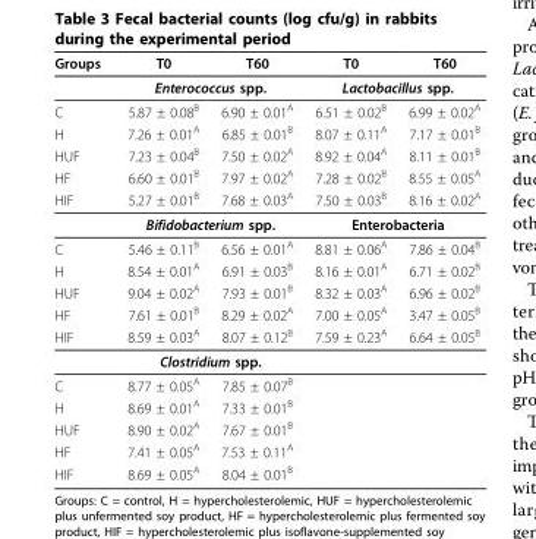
<table><thead><tr><td>Groups</td><td>T0</td><td>T60</td><td>T0</td><td>T60</td></tr></thead><tbody><tr><td></td><td colspan="2">Enterococcus spp.</td><td colspan="2">Lactobacillus spp.</td></tr><tr><td>C</td><td>5.87 ± 0.08<sup>B</sup></td><td>6.90 ± 0.01<sup>A</sup></td><td>6.51 ± 0.02<sup>B</sup></td><td>6.99 ± 0.02<sup>A</sup></td></tr><tr><td>H</td><td>7.26 ± 0.01<sup>A</sup></td><td>6.85 ± 0.01<sup>B</sup></td><td>8.07 ± 0.11<sup>A</sup></td><td>7.17 ± 0.01<sup>B</sup></td></tr><tr><td>HUF</td><td>7.23 ± 0.04<sup>B</sup></td><td>7.50 ± 0.02<sup>A</sup></td><td>8.92 ± 0.04<sup>A</sup></td><td>8.11 ± 0.01<sup>B</sup></td></tr><tr><td>HF</td><td>6.60 ± 0.01<sup>B</sup></td><td>7.97 ± 0.02<sup>A</sup></td><td>7.28 ± 0.02<sup>B</sup></td><td>8.55 ± 0.05<sup>A</sup></td></tr><tr><td rowspan="2">HIF</td><td>5.27 ± 0.01<sup>B</sup></td><td>7.68 ± 0.03<sup>A</sup></td><td>7.50 ± 0.03<sup>B</sup></td><td>8.16 ± 0.02<sup>A</sup></td></tr><tr><td colspan="2">Bifidobacterium spp.</td><td colspan="2">Enterobacteria</td></tr><tr><td>C</td><td>5.46 ± 0.11<sup>B</sup></td><td>6.56 ± 0.01<sup>A</sup></td><td>8.81 ± 0.06<sup>A</sup></td><td>7.86 ± 0.04<sup>B</sup></td></tr><tr><td>H</td><td>8.54 ± 0.01<sup>A</sup></td><td>6.91 ± 0.03<sup>B</sup></td><td>8.16 ± 0.01<sup>A</sup></td><td>6.71 ± 0.02<sup>B</sup></td></tr><tr><td>HUF</td><td>9.04 ± 0.02<sup>A</sup></td><td>7.93 ± 0.01<sup>B</sup></td><td>8.32 ± 0.03<sup>A</sup></td><td>6.96 ± 0.02<sup>B</sup></td></tr><tr><td>HF</td><td>7.61 ± 0.01<sup>B</sup></td><td>8.29 ± 0.02<sup>A</sup></td><td>7.00 ± 0.05<sup>A</sup></td><td>3.47 ± 0.05<sup>B</sup></td></tr><tr><td rowspan="2">HIF</td><td>8.59 ± 0.03<sup>A</sup></td><td>8.07 ± 0.12<sup>B</sup></td><td>7.59 ± 0.23<sup>A</sup></td><td>6.64 ± 0.05<sup>B</sup></td></tr><tr><td colspan="2">Clostridium spp.</td><td></td><td></td></tr><tr><td>C</td><td>8.77 ± 0.05<sup>A</sup></td><td>7.85 ± 0.07<sup>B</sup></td><td></td><td></td></tr><tr><td>H</td><td>8.69 ± 0.01<sup>A</sup></td><td>7.33 ± 0.01<sup>B</sup></td><td></td><td></td></tr><tr><td>HUF</td><td>8.90 ± 0.02<sup>A</sup></td><td>7.67 ± 0.01<sup>B</sup></td><td></td><td></td></tr><tr><td>HF</td><td>7.41 ± 0.05<sup>A</sup></td><td>7.53 ± 0.11<sup>A</sup></td><td></td><td></td></tr><tr><td>HIF</td><td>8.69 ± 0.05<sup>A</sup></td><td>8.04 ± 0.01<sup>B</sup></td><td></td><td></td></tr></tbody></table>